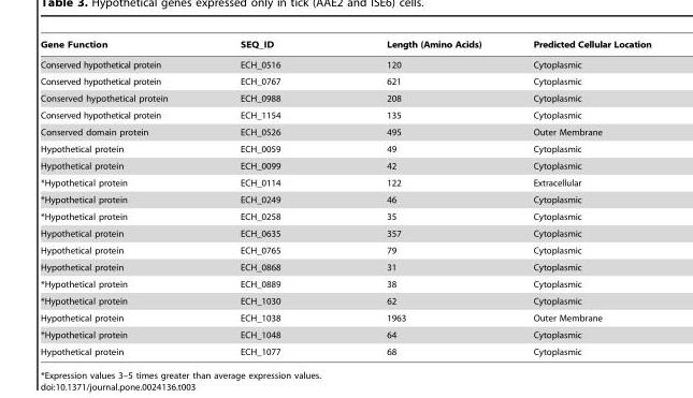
<table><thead><tr><td>Gene Function</td><td>SEQ_ID</td><td>Length (Amino Acids)</td><td>Predicted Cellular Location</td></tr></thead><tbody><tr><td>Conserved hypothetical protein</td><td>ECH_0516</td><td>120</td><td>Cytoplasmic</td></tr><tr><td>Conserved hypothetical protein</td><td>ECH_0767</td><td>621</td><td>Cytoplasmic</td></tr><tr><td>Conserved hypothetical protein</td><td>ECH_0988</td><td>208</td><td>Cytoplasmic</td></tr><tr><td>Conserved hypothetical protein</td><td>ECH_1154</td><td>135</td><td>Cytoplasmic</td></tr><tr><td>Conserved domain protein</td><td>ECH_0526</td><td>495</td><td>Outer Membrane</td></tr><tr><td>Hypothetical protein</td><td>ECH_0059</td><td>49</td><td>Cytoplasmic</td></tr><tr><td>Hypothetical protein</td><td>ECH_0099</td><td>42</td><td>Cytoplasmic</td></tr><tr><td>*Hypothetical protein</td><td>ECH_0114</td><td>122</td><td>Extracellular</td></tr><tr><td>*Hypothetical protein</td><td>ECH_0249</td><td>46</td><td>Cytoplasmic</td></tr><tr><td>*Hypothetical protein</td><td>ECH_0258</td><td>35</td><td>Cytoplasmic</td></tr><tr><td>Hypothetical protein</td><td>ECH_0635</td><td>357</td><td>Cytoplasmic</td></tr><tr><td>Hypothetical protein</td><td>ECH_0765</td><td>79</td><td>Cytoplasmic</td></tr><tr><td>Hypothetical protein</td><td>ECH_0868</td><td>31</td><td>Cytoplasmic</td></tr><tr><td>*Hypothetical protein</td><td>ECH_0889</td><td>38</td><td>Cytoplasmic</td></tr><tr><td>*Hypothetical protein</td><td>ECH_1030</td><td>62</td><td>Cytoplasmic</td></tr><tr><td>Hypothetical protein</td><td>ECH_1038</td><td>1963</td><td>Outer Membrane</td></tr><tr><td>*Hypothetical protein</td><td>ECH_1048</td><td>64</td><td>Cytoplasmic</td></tr><tr><td>Hypothetical protein</td><td>ECH_1077</td><td>68</td><td>Cytoplasmic</td></tr></tbody></table>